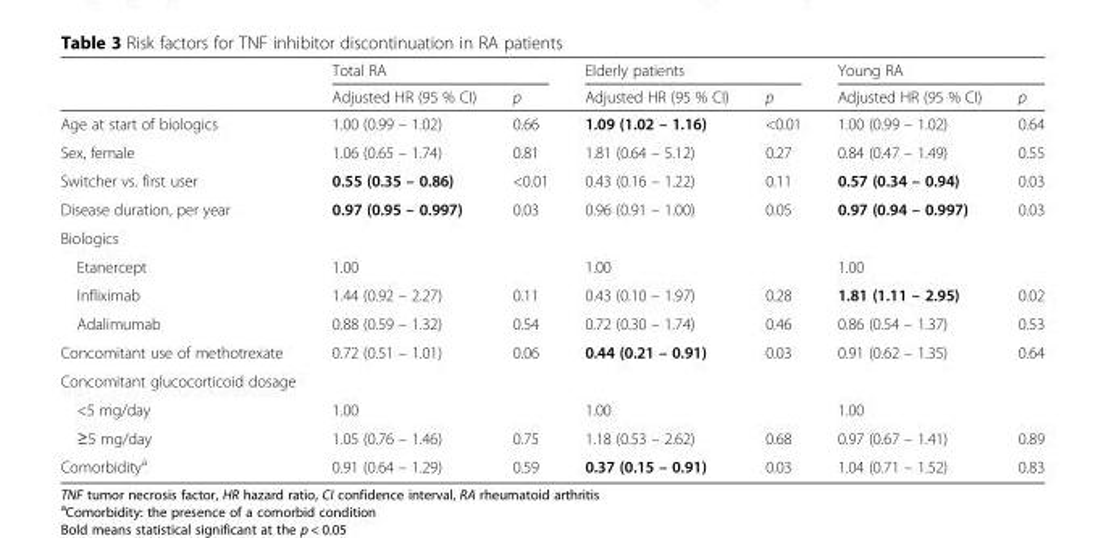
<table><thead><tr><td rowspan="2"></td><td colspan="2">Total RA</td><td colspan="2">Elderly patients</td><td colspan="2">Young RA</td></tr><tr><td>Adjusted HR (95 % CI)</td><td>p</td><td>Adjusted HR (95 % CI)</td><td>p</td><td>Adjusted HR (95 % CI)</td><td>p</td></tr></thead><tbody><tr><td>Age at start of biologics</td><td>1.00 (0.99 – 1.02)</td><td>0.66</td><td>1.09 (1.02 – 1.16)</td><td>&lt;0.01</td><td>1.00 (0.99 – 1.02)</td><td>0.64</td></tr><tr><td>Sex, female</td><td>1.06 (0.65 – 1.74)</td><td>0.81</td><td>1.81 (0.64 – 5.12)</td><td>0.27</td><td>0.84 (0.47 – 1.49)</td><td>0.55</td></tr><tr><td>Switcher vs. first user</td><td>0.55 (0.35 – 0.86)</td><td>&lt;0.01</td><td>0.43 (0.16 – 1.22)</td><td>0.11</td><td>0.57 (0.34 – 0.94)</td><td>0.03</td></tr><tr><td>Disease duration, per year</td><td>0.97 (0.95 – 0.997)</td><td>0.03</td><td>0.96 (0.91 – 1.00)</td><td>0.05</td><td>0.97 (0.94 – 0.997)</td><td>0.03</td></tr><tr><td colspan="7">Biologics</td></tr><tr><td>Etanercept</td><td>1.00</td><td></td><td>1.00</td><td></td><td>1.00</td><td></td></tr><tr><td>Infliximab</td><td>1.44 (0.92 – 2.27)</td><td>0.11</td><td>0.43 (0.10 – 1.97)</td><td>0.28</td><td>1.81 (1.11 – 2.95)</td><td>0.02</td></tr><tr><td>Adalimumab</td><td>0.88 (0.59 – 1.32)</td><td>0.54</td><td>0.72 (0.30 – 1.74)</td><td>0.46</td><td>0.86 (0.54 – 1.37)</td><td>0.53</td></tr><tr><td>Concomitant use of methotrexate</td><td>0.72 (0.51 – 1.01)</td><td>0.06</td><td>0.44 (0.21 – 0.91)</td><td>0.03</td><td>0.91 (0.62 – 1.35)</td><td>0.64</td></tr><tr><td colspan="7">Concomitant glucocorticoid dosage</td></tr><tr><td>&lt;5 mg/day</td><td>1.00</td><td></td><td>1.00</td><td></td><td>1.00</td><td></td></tr><tr><td>≥5 mg/day</td><td>1.05 (0.76 – 1.46)</td><td>0.75</td><td>1.18 (0.53 – 2.62)</td><td>0.68</td><td>0.97 (0.67 – 1.41)</td><td>0.89</td></tr><tr><td>Comorbidity<sup>a</sup></td><td>0.91 (0.64 – 1.29)</td><td>0.59</td><td>0.37 (0.15 – 0.91)</td><td>0.03</td><td>1.04 (0.71 – 1.52)</td><td>0.83</td></tr></tbody></table>